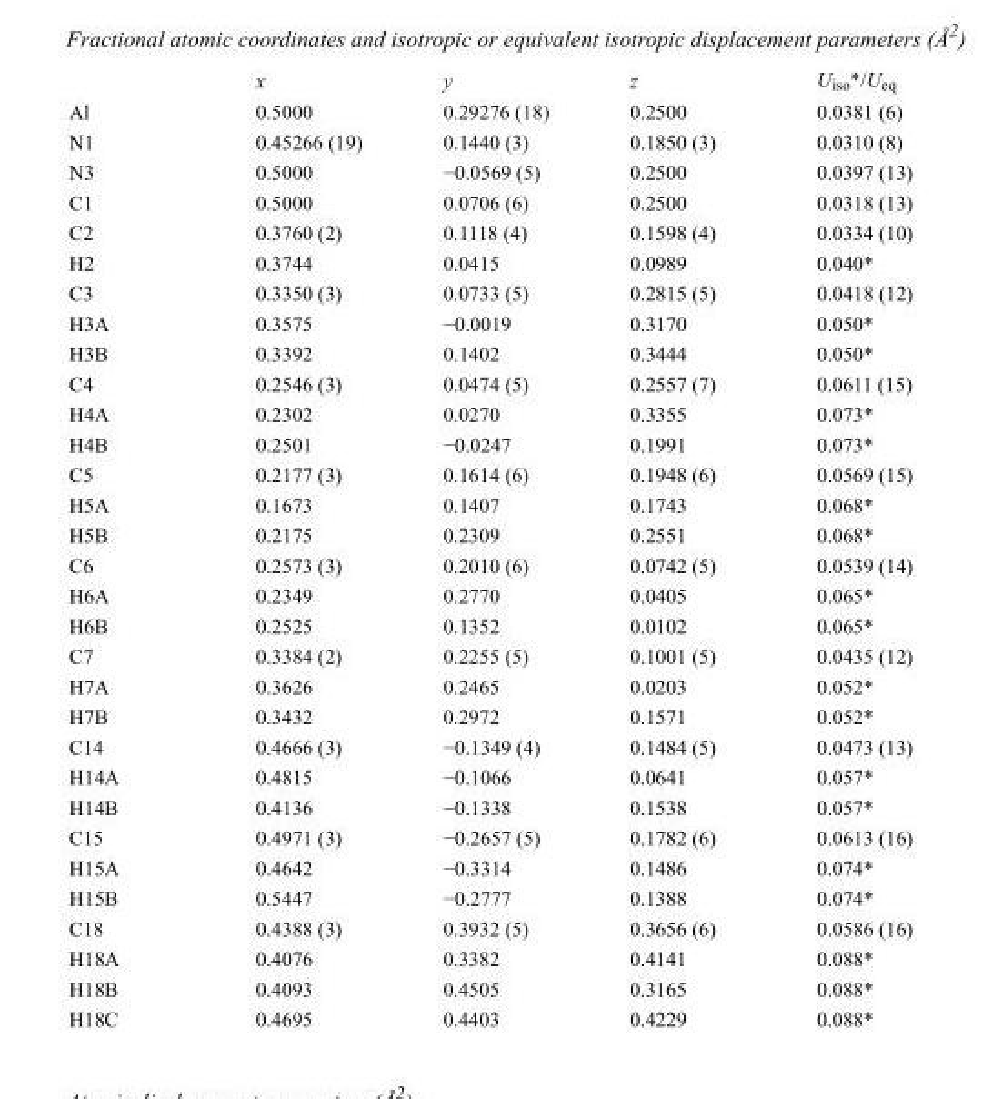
<table><thead><tr><td></td><td>x</td><td>y</td><td>z</td><td>U<sub>iso</sub>*/U<sub>eq</sub></td></tr></thead><tbody><tr><td>Al</td><td>0.5000</td><td>0.29276 (18)</td><td>0.2500</td><td>0.0381 (6)</td></tr><tr><td>N1</td><td>0.45266 (19)</td><td>0.1440 (3)</td><td>0.1850 (3)</td><td>0.0310 (8)</td></tr><tr><td>N3</td><td>0.5000</td><td>−0.0569 (5)</td><td>0.2500</td><td>0.0397 (13)</td></tr><tr><td>C1</td><td>0.5000</td><td>0.0706 (6)</td><td>0.2500</td><td>0.0318 (13)</td></tr><tr><td>C2</td><td>0.3760 (2)</td><td>0.1118 (4)</td><td>0.1598 (4)</td><td>0.0334 (10)</td></tr><tr><td>H2</td><td>0.3744</td><td>0.0415</td><td>0.0989</td><td>0.040*</td></tr><tr><td>C3</td><td>0.3350 (3)</td><td>0.0733 (5)</td><td>0.2815 (5)</td><td>0.0418 (12)</td></tr><tr><td>H3A</td><td>0.3575</td><td>−0.0019</td><td>0.3170</td><td>0.050*</td></tr><tr><td>H3B</td><td>0.3392</td><td>0.1402</td><td>0.3444</td><td>0.050*</td></tr><tr><td>C4</td><td>0.2546 (3)</td><td>0.0474 (5)</td><td>0.2557 (7)</td><td>0.0611 (15)</td></tr><tr><td>H4A</td><td>0.2302</td><td>0.0270</td><td>0.3355</td><td>0.073*</td></tr><tr><td>H4B</td><td>0.2501</td><td>−0.0247</td><td>0.1991</td><td>0.073*</td></tr><tr><td>C5</td><td>0.2177 (3)</td><td>0.1614 (6)</td><td>0.1948 (6)</td><td>0.0569 (15)</td></tr><tr><td>H5A</td><td>0.1673</td><td>0.1407</td><td>0.1743</td><td>0.068*</td></tr><tr><td>H5B</td><td>0.2175</td><td>0.2309</td><td>0.2551</td><td>0.068*</td></tr><tr><td>C6</td><td>0.2573 (3)</td><td>0.2010 (6)</td><td>0.0742 (5)</td><td>0.0539 (14)</td></tr><tr><td>H6A</td><td>0.2349</td><td>0.2770</td><td>0.0405</td><td>0.065*</td></tr><tr><td>H6B</td><td>0.2525</td><td>0.1352</td><td>0.0102</td><td>0.065*</td></tr><tr><td>C7</td><td>0.3384 (2)</td><td>0.2255 (5)</td><td>0.1001 (5)</td><td>0.0435 (12)</td></tr><tr><td>H7A</td><td>0.3626</td><td>0.2465</td><td>0.0203</td><td>0.052*</td></tr><tr><td>H7B</td><td>0.3432</td><td>0.2972</td><td>0.1571</td><td>0.052*</td></tr><tr><td>C14</td><td>0.4666 (3)</td><td>−0.1349 (4)</td><td>0.1484 (5)</td><td>0.0473 (13)</td></tr><tr><td>H14A</td><td>0.4815</td><td>−0.1066</td><td>0.0641</td><td>0.057*</td></tr><tr><td>H14B</td><td>0.4136</td><td>−0.1338</td><td>0.1538</td><td>0.057*</td></tr><tr><td>C15</td><td>0.4971 (3)</td><td>−0.2657 (5)</td><td>0.1782 (6)</td><td>0.0613 (16)</td></tr><tr><td>H15A</td><td>0.4642</td><td>−0.3314</td><td>0.1486</td><td>0.074*</td></tr><tr><td>H15B</td><td>0.5447</td><td>−0.2777</td><td>0.1388</td><td>0.074*</td></tr><tr><td>C18</td><td>0.4388 (3)</td><td>0.3932 (5)</td><td>0.3656 (6)</td><td>0.0586 (16)</td></tr><tr><td>H18A</td><td>0.4076</td><td>0.3382</td><td>0.4141</td><td>0.088*</td></tr><tr><td>H18B</td><td>0.4093</td><td>0.4505</td><td>0.3165</td><td>0.088*</td></tr><tr><td>H18C</td><td>0.4695</td><td>0.4403</td><td>0.4229</td><td>0.088*</td></tr></tbody></table>